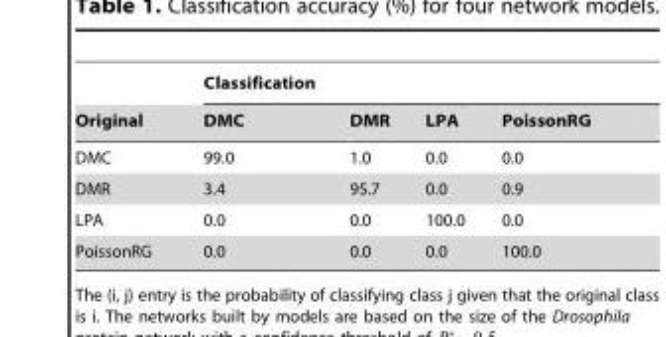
<table><thead><tr><td rowspan="2">Original</td><td colspan="4">Classification</td></tr><tr><td>DMC</td><td>DMR</td><td>LPA</td><td>PoissonRG</td></tr></thead><tbody><tr><td>DMC</td><td>99.0</td><td>1.0</td><td>0.0</td><td>0.0</td></tr><tr><td>DMR</td><td>3.4</td><td>95.7</td><td>0.0</td><td>0.9</td></tr><tr><td>LPA</td><td>0.0</td><td>0.0</td><td>100.0</td><td>0.0</td></tr><tr><td>PoissonRG</td><td>0.0</td><td>0.0</td><td>0.0</td><td>100.0</td></tr></tbody></table>